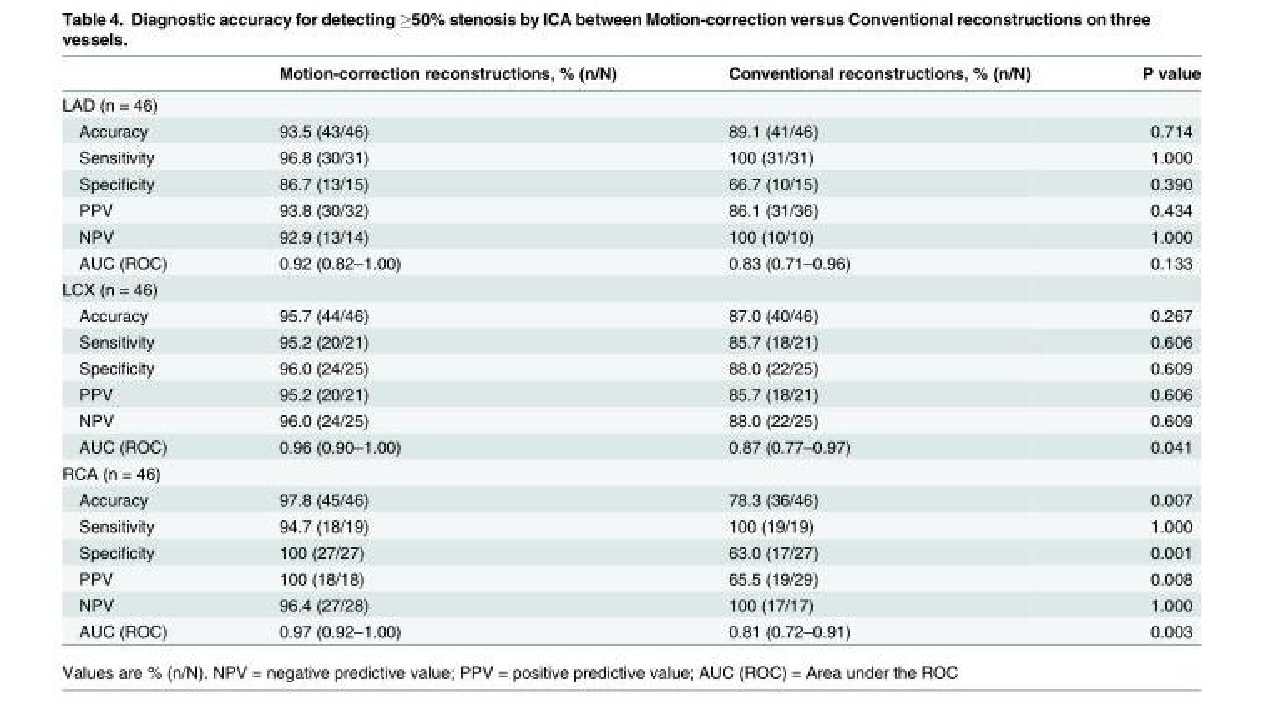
<table><thead><tr><td></td><td>Motion-correction reconstructions, % (n/N)</td><td>Conventional reconstructions, % (n/N)</td><td>P value</td></tr></thead><tbody><tr><td colspan="4">LAD (n = 46)</td></tr><tr><td>Accuracy</td><td>93.5 (43/46)</td><td>89.1 (41/46)</td><td>0.714</td></tr><tr><td>Sensitivity</td><td>96.8 (30/31)</td><td>100 (31/31)</td><td>1.000</td></tr><tr><td>Specificity</td><td>86.7 (13/15)</td><td>66.7 (10/15)</td><td>0.390</td></tr><tr><td>PPV</td><td>93.8 (30/32)</td><td>86.1 (31/36)</td><td>0.434</td></tr><tr><td>NPV</td><td>92.9 (13/14)</td><td>100 (10/10)</td><td>1.000</td></tr><tr><td>AUC (ROC)</td><td>0.92 (0.82–1.00)</td><td>0.83 (0.71–0.96)</td><td>0.133</td></tr><tr><td colspan="4">LCX (n = 46)</td></tr><tr><td>Accuracy</td><td>95.7 (44/46)</td><td>87.0 (40/46)</td><td>0.267</td></tr><tr><td>Sensitivity</td><td>95.2 (20/21)</td><td>85.7 (18/21)</td><td>0.606</td></tr><tr><td>Specificity</td><td>96.0 (24/25)</td><td>88.0 (22/25)</td><td>0.609</td></tr><tr><td>PPV</td><td>95.2 (20/21)</td><td>85.7 (18/21)</td><td>0.606</td></tr><tr><td>NPV</td><td>96.0 (24/25)</td><td>88.0 (22/25)</td><td>0.609</td></tr><tr><td>AUC (ROC)</td><td>0.96 (0.90–1.00)</td><td>0.87 (0.77–0.97)</td><td>0.041</td></tr><tr><td colspan="4">RCA (n = 46)</td></tr><tr><td>Accuracy</td><td>97.8 (45/46)</td><td>78.3 (36/46)</td><td>0.007</td></tr><tr><td>Sensitivity</td><td>94.7 (18/19)</td><td>100 (19/19)</td><td>1.000</td></tr><tr><td>Specificity</td><td>100 (27/27)</td><td>63.0 (17/27)</td><td>0.001</td></tr><tr><td>PPV</td><td>100 (18/18)</td><td>65.5 (19/29)</td><td>0.008</td></tr><tr><td>NPV</td><td>96.4 (27/28)</td><td>100 (17/17)</td><td>1.000</td></tr><tr><td>AUC (ROC)</td><td>0.97 (0.92–1.00)</td><td>0.81 (0.72–0.91)</td><td>0.003</td></tr></tbody></table>